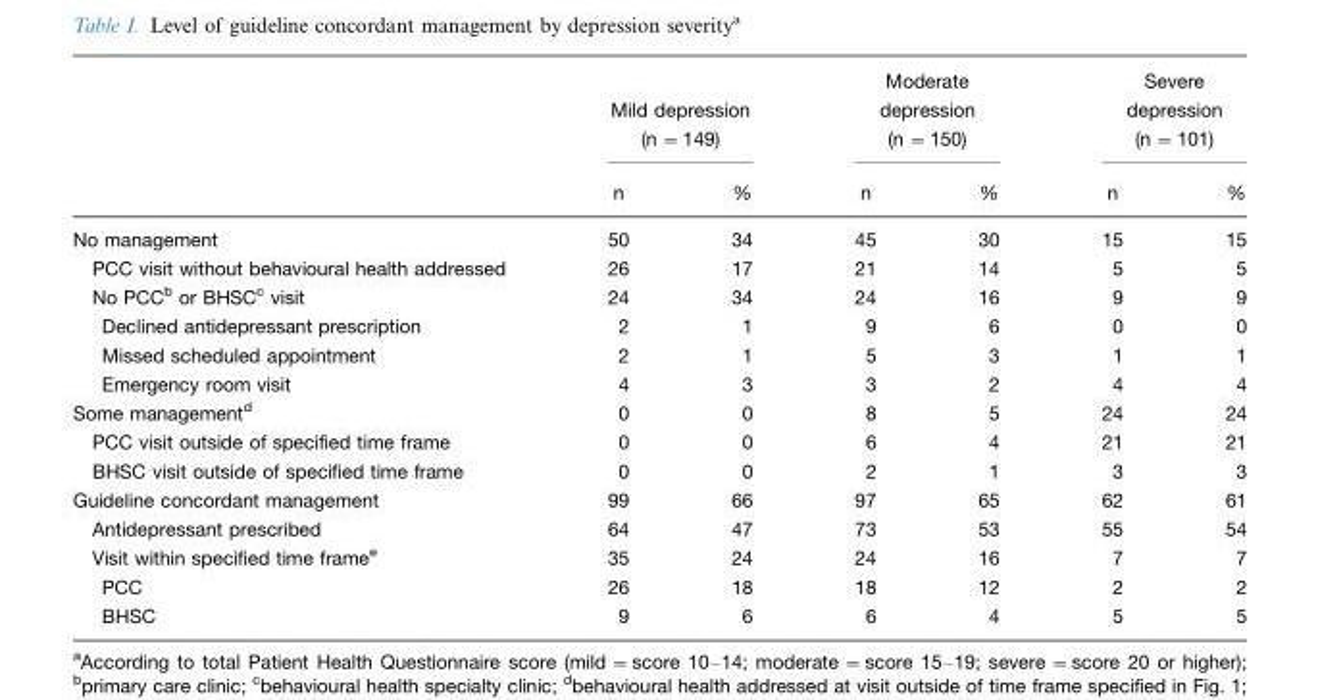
<table><thead><tr><td rowspan="2"></td><td colspan="2">Mild depression (n =149)</td><td colspan="2">Moderate depression (n =150)</td><td colspan="2">Severe depression (n =101)</td></tr><tr><td>n</td><td>%</td><td>n</td><td>%</td><td>n</td><td>%</td></tr></thead><tbody><tr><td>No management</td><td>50</td><td>34</td><td>45</td><td>30</td><td>15</td><td>15</td></tr><tr><td>PCC visit without behavioural health addressed</td><td>26</td><td>17</td><td>21</td><td>14</td><td>5</td><td>5</td></tr><tr><td>No PCC<sup>b</sup> or BHSC<sup>c</sup> visit</td><td>24</td><td>34</td><td>24</td><td>16</td><td>9</td><td>9</td></tr><tr><td>Declined antidepressant prescription</td><td>2</td><td>1</td><td>9</td><td>6</td><td>0</td><td>0</td></tr><tr><td>Missed scheduled appointment</td><td>2</td><td>1</td><td>5</td><td>3</td><td>1</td><td>1</td></tr><tr><td>Emergency room visit</td><td>4</td><td>3</td><td>3</td><td>2</td><td>4</td><td>4</td></tr><tr><td>Some management<sup>d</sup></td><td>0</td><td>0</td><td>8</td><td>5</td><td>24</td><td>24</td></tr><tr><td>PCC visit outside of specified time frame</td><td>0</td><td>0</td><td>6</td><td>4</td><td>21</td><td>21</td></tr><tr><td>BHSC visit outside of specified time frame</td><td>0</td><td>0</td><td>2</td><td>1</td><td>3</td><td>3</td></tr><tr><td>Guideline concordant management</td><td>99</td><td>66</td><td>97</td><td>65</td><td>62</td><td>61</td></tr><tr><td>Antidepressant prescribed</td><td>64</td><td>47</td><td>73</td><td>53</td><td>55</td><td>54</td></tr><tr><td>Visit within specified time frame<sup>e</sup></td><td>35</td><td>24</td><td>24</td><td>16</td><td>7</td><td>7</td></tr><tr><td>PCC</td><td>26</td><td>18</td><td>18</td><td>12</td><td>2</td><td>2</td></tr><tr><td>BHSC</td><td>9</td><td>6</td><td>6</td><td>4</td><td>5</td><td>5</td></tr></tbody></table>